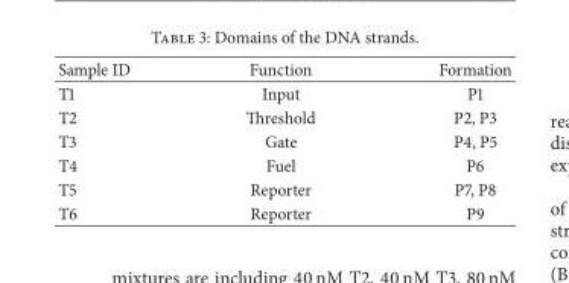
<table><thead><tr><td>Sample ID</td><td>Function</td><td>Formation</td></tr></thead><tbody><tr><td>T1</td><td>Input</td><td>P1</td></tr><tr><td>T2</td><td>Threshold</td><td>P2, P3</td></tr><tr><td>T3</td><td>Gate</td><td>P4, P5</td></tr><tr><td>T4</td><td>Fuel</td><td>P6</td></tr><tr><td>T5</td><td>Reporter</td><td>P7, P8</td></tr><tr><td>T6</td><td>Reporter</td><td>P9</td></tr></tbody></table>